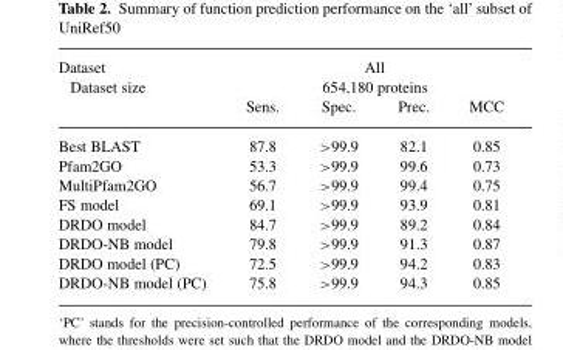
<table><thead><tr><td rowspan="3">Dataset Dataset size</td><td rowspan="3">Sens.</td><td rowspan="2" colspan="2">All 654,180 proteins</td><td rowspan="3">MCC</td></tr><tr></tr><tr><td>Spec.</td><td>Prec.</td></tr></thead><tbody><tr><td>Best BLAST</td><td>87.8</td><td>&gt;99.9</td><td>82.1</td><td>0.85</td></tr><tr><td>Pfam2GO</td><td>53.3</td><td>&gt;99.9</td><td>99.6</td><td>0.73</td></tr><tr><td>MultiPfam2GO</td><td>56.7</td><td>&gt;99.9</td><td>99.4</td><td>0.75</td></tr><tr><td>FS model</td><td>69.1</td><td>&gt;99.9</td><td>93.9</td><td>0.81</td></tr><tr><td>DRDO model</td><td>84.7</td><td>&gt;99.9</td><td>89.2</td><td>0.84</td></tr><tr><td>DRDO-NB model</td><td>79.8</td><td>&gt;99.9</td><td>91.3</td><td>0.87</td></tr><tr><td>DRDO model (PC)</td><td>72.5</td><td>&gt;99.9</td><td>94.2</td><td>0.83</td></tr><tr><td>DRDO-NB model (PC)</td><td>75.8</td><td>&gt;99.9</td><td>94.3</td><td>0.85</td></tr></tbody></table>